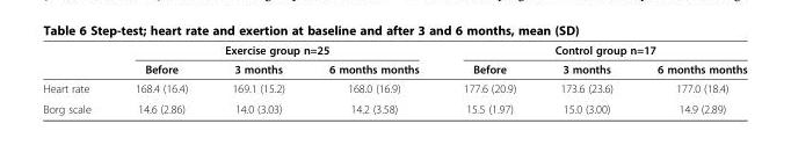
<table><thead><tr><td rowspan="2"></td><td colspan="3">Exercise group n=25</td><td colspan="3">Control group n=17</td></tr><tr><td>Before</td><td>3 months</td><td>6 months months</td><td>Before</td><td>3 months</td><td>6 months months</td></tr></thead><tbody><tr><td>Heart rate</td><td>168.4 (16.4)</td><td>169.1 (15.2)</td><td>168.0 (16.9)</td><td>177.6 (20.9)</td><td>173.6 (23.6)</td><td>177.0 (18.4)</td></tr><tr><td>Borg scale</td><td>14.6 (2.86)</td><td>14.0 (3.03)</td><td>14.2 (3.58)</td><td>15.5 (1.97)</td><td>15.0 (3.00)</td><td>14.9 (2.89)</td></tr></tbody></table>